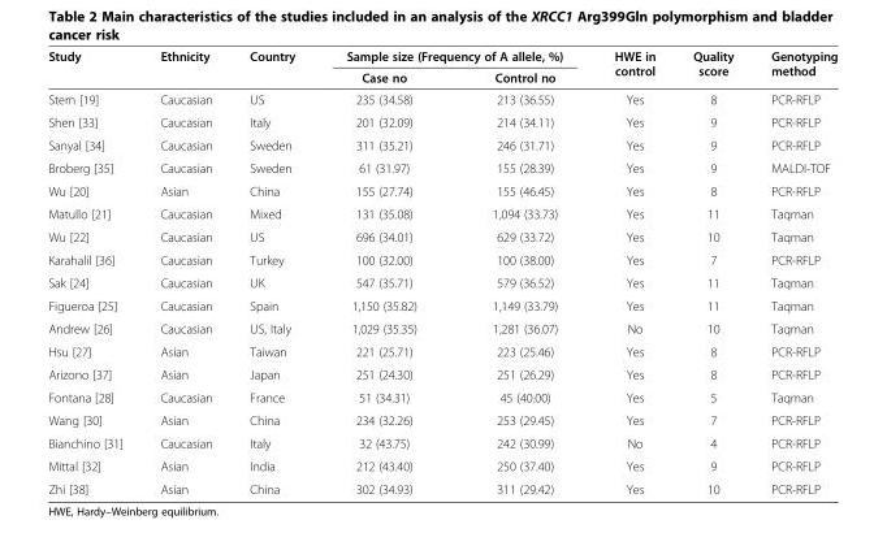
<table><thead><tr><td rowspan="2">Study</td><td rowspan="2">Ethnicity</td><td rowspan="2">Country</td><td colspan="2">Sample size (Frequency of A allele, %)</td><td rowspan="2">HWE in control</td><td rowspan="2">Quality score</td><td rowspan="2">Genotyping method</td></tr><tr><td>Case no</td><td>Control no</td></tr></thead><tbody><tr><td>Stern [19]</td><td>Caucasian</td><td>US</td><td>235 (34.58)</td><td>213 (36.55)</td><td>Yes</td><td>8</td><td>PCR-RFLP</td></tr><tr><td>Shen [33]</td><td>Caucasian</td><td>Italy</td><td>201 (32.09)</td><td>214 (34.11)</td><td>Yes</td><td>9</td><td>PCR-RFLP</td></tr><tr><td>Sanyal [34]</td><td>Caucasian</td><td>Sweden</td><td>311 (35.21)</td><td>246 (31.71)</td><td>Yes</td><td>9</td><td>PCR-RFLP</td></tr><tr><td>Broberg [35]</td><td>Caucasian</td><td>Sweden</td><td>61 (31.97)</td><td>155 (28.39)</td><td>Yes</td><td>9</td><td>MALDI-TOF</td></tr><tr><td>Wu [20]</td><td>Asian</td><td>China</td><td>155 (27.74)</td><td>155 (46.45)</td><td>Yes</td><td>8</td><td>PCR-RFLP</td></tr><tr><td>Matullo [21]</td><td>Caucasian</td><td>Mixed</td><td>131 (35.08)</td><td>1,094 (33.73)</td><td>Yes</td><td>11</td><td>Taqman</td></tr><tr><td>Wu [22]</td><td>Caucasian</td><td>US</td><td>696 (34.01)</td><td>629 (33.72)</td><td>Yes</td><td>10</td><td>Taqman</td></tr><tr><td>Karahalil [36]</td><td>Caucasian</td><td>Turkey</td><td>100 (32.00)</td><td>100 (38.00)</td><td>Yes</td><td>7</td><td>PCR-RFLP</td></tr><tr><td>Sak [24]</td><td>Caucasian</td><td>UK</td><td>547 (35.71)</td><td>579 (36.52)</td><td>Yes</td><td>11</td><td>Taqman</td></tr><tr><td>Figueroa [25]</td><td>Caucasian</td><td>Spain</td><td>1,150 (35.82)</td><td>1,149 (33.79)</td><td>Yes</td><td>11</td><td>Taqman</td></tr><tr><td>Andrew [26]</td><td>Caucasian</td><td>US, Italy</td><td>1,029 (35.35)</td><td>1,281 (36.07)</td><td>No</td><td>10</td><td>Taqman</td></tr><tr><td>Hsu [27]</td><td>Asian</td><td>Taiwan</td><td>221 (25.71)</td><td>223 (25.46)</td><td>Yes</td><td>8</td><td>PCR-RFLP</td></tr><tr><td>Arizono [37]</td><td>Asian</td><td>Japan</td><td>251 (24.30)</td><td>251 (26.29)</td><td>Yes</td><td>8</td><td>PCR-RFLP</td></tr><tr><td>Fontana [28]</td><td>Caucasian</td><td>France</td><td>51 (34.31)</td><td>45 (40.00)</td><td>Yes</td><td>5</td><td>Taqman</td></tr><tr><td>Wang [30]</td><td>Asian</td><td>China</td><td>234 (32.26)</td><td>253 (29.45)</td><td>Yes</td><td>7</td><td>PCR-RFLP</td></tr><tr><td>Bianchino [31]</td><td>Caucasian</td><td>Italy</td><td>32 (43.75)</td><td>242 (30.99)</td><td>No</td><td>4</td><td>PCR-RFLP</td></tr><tr><td>Mittal [32]</td><td>Asian</td><td>India</td><td>212 (43.40)</td><td>250 (37.40)</td><td>Yes</td><td>9</td><td>PCR-RFLP</td></tr><tr><td>Zhi [38]</td><td>Asian</td><td>China</td><td>302 (34.93)</td><td>311 (29.42)</td><td>Yes</td><td>10</td><td>PCR-RFLP</td></tr></tbody></table>